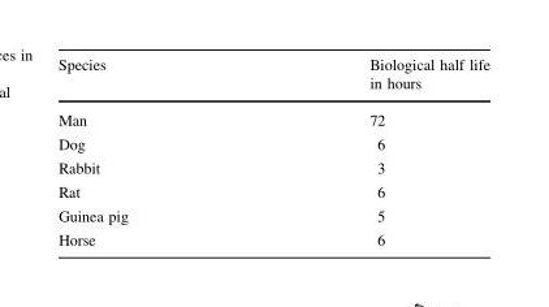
<table><thead><tr><td>Species</td><td>Biological half life in hours</td></tr></thead><tbody><tr><td>Man</td><td>72</td></tr><tr><td>Dog</td><td>6</td></tr><tr><td>Rabbit</td><td>3</td></tr><tr><td>Rat</td><td>6</td></tr><tr><td>Guinea pig</td><td>5</td></tr><tr><td>Horse</td><td>6</td></tr></tbody></table>